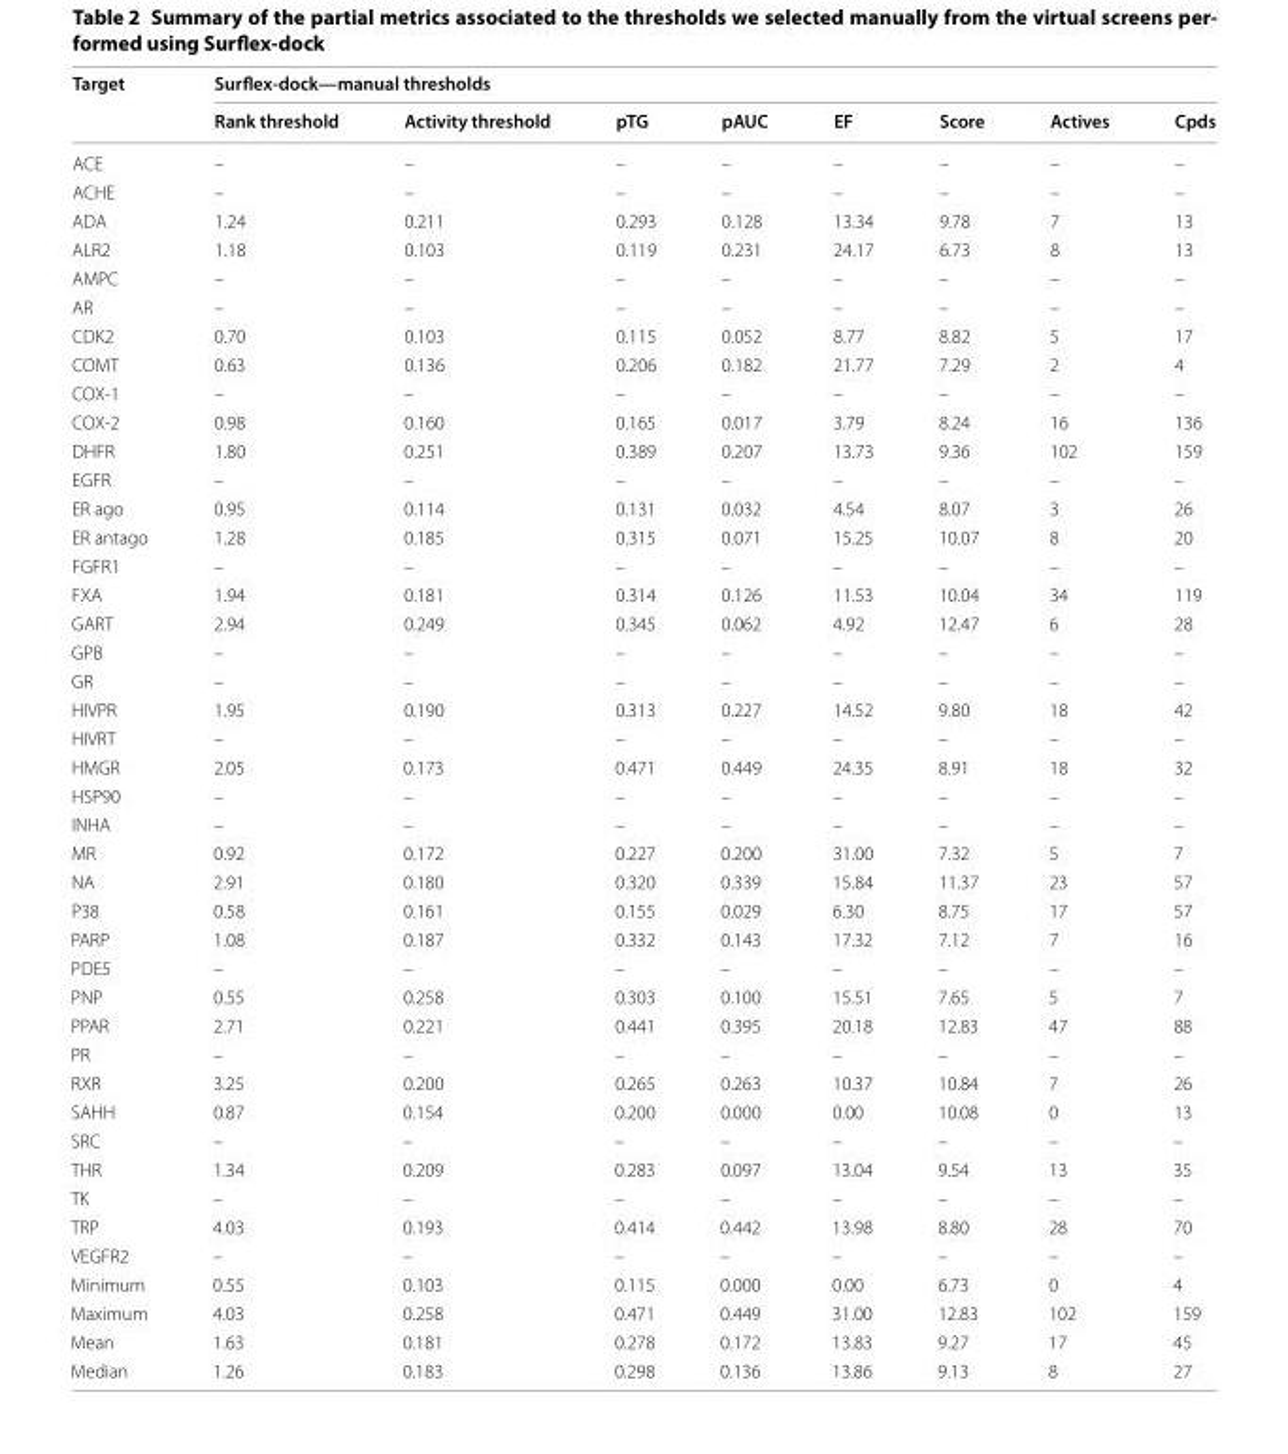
<table><thead><tr><td rowspan="2">Target</td><td colspan="8">Surflex-dock—manual thresholds</td></tr><tr><td>Rank threshold</td><td>Activity threshold</td><td>pTG</td><td>pAUC</td><td>EF</td><td>Score</td><td>Actives</td><td>Cpds</td></tr></thead><tbody><tr><td>ACE</td><td>–</td><td>–</td><td>–</td><td>–</td><td>–</td><td>–</td><td>–</td><td>–</td></tr><tr><td>ACHE</td><td>–</td><td>–</td><td>–</td><td>–</td><td>–</td><td>–</td><td>–</td><td>–</td></tr><tr><td>ADA</td><td>1.24</td><td>0.211</td><td>0.293</td><td>0.128</td><td>13.34</td><td>9.78</td><td>7</td><td>13</td></tr><tr><td>ALR2</td><td>1.18</td><td>0.103</td><td>0.119</td><td>0.231</td><td>24.17</td><td>6.73</td><td>8</td><td>13</td></tr><tr><td>AMPC</td><td>–</td><td>–</td><td>–</td><td>–</td><td>–</td><td>–</td><td>–</td><td>–</td></tr><tr><td>AR</td><td>–</td><td>–</td><td>–</td><td>–</td><td>–</td><td>–</td><td>–</td><td>–</td></tr><tr><td>CDK2</td><td>0.70</td><td>0.103</td><td>0.115</td><td>0.052</td><td>8.77</td><td>8.82</td><td>5</td><td>17</td></tr><tr><td>COMT</td><td>0.63</td><td>0.136</td><td>0.206</td><td>0.182</td><td>21.77</td><td>7.29</td><td>2</td><td>4</td></tr><tr><td>COX‑1</td><td>–</td><td>–</td><td>–</td><td>–</td><td>–</td><td>–</td><td>–</td><td>–</td></tr><tr><td>COX‑2</td><td>0.98</td><td>0.160</td><td>0.165</td><td>0.017</td><td>3.79</td><td>8.24</td><td>16</td><td>136</td></tr><tr><td>DHFR</td><td>1.80</td><td>0.251</td><td>0.389</td><td>0.207</td><td>13.73</td><td>9.36</td><td>102</td><td>159</td></tr><tr><td>EGFR</td><td>–</td><td>–</td><td>–</td><td>–</td><td>–</td><td>–</td><td>–</td><td>–</td></tr><tr><td>ER ago</td><td>0.95</td><td>0.114</td><td>0.131</td><td>0.032</td><td>4.54</td><td>8.07</td><td>3</td><td>26</td></tr><tr><td>ER antago</td><td>1.28</td><td>0.185</td><td>0.315</td><td>0.071</td><td>15.25</td><td>10.07</td><td>8</td><td>20</td></tr><tr><td>FGFR1</td><td>–</td><td>–</td><td>–</td><td>–</td><td>–</td><td>–</td><td>–</td><td>–</td></tr><tr><td>FXA</td><td>1.94</td><td>0.181</td><td>0.314</td><td>0.126</td><td>11.53</td><td>10.04</td><td>34</td><td>119</td></tr><tr><td>GART</td><td>2.94</td><td>0.249</td><td>0.345</td><td>0.062</td><td>4.92</td><td>12.47</td><td>6</td><td>28</td></tr><tr><td>GPB</td><td>–</td><td>–</td><td>–</td><td>–</td><td>–</td><td>–</td><td>–</td><td>–</td></tr><tr><td>GR</td><td>–</td><td>–</td><td>–</td><td>–</td><td>–</td><td>–</td><td>–</td><td>–</td></tr><tr><td>HIVPR</td><td>1.95</td><td>0.190</td><td>0.313</td><td>0.227</td><td>14.52</td><td>9.80</td><td>18</td><td>42</td></tr><tr><td>HIVRT</td><td>–</td><td>–</td><td>–</td><td>–</td><td>–</td><td>–</td><td>–</td><td>–</td></tr><tr><td>HMGR</td><td>2.05</td><td>0.173</td><td>0.471</td><td>0.449</td><td>24.35</td><td>8.91</td><td>18</td><td>32</td></tr><tr><td>HSP90</td><td>–</td><td>–</td><td>–</td><td>–</td><td>–</td><td>–</td><td>–</td><td>–</td></tr><tr><td>INHA</td><td>–</td><td>–</td><td>–</td><td>–</td><td>–</td><td>–</td><td>–</td><td>–</td></tr><tr><td>MR</td><td>0.92</td><td>0.172</td><td>0.227</td><td>0.200</td><td>31.00</td><td>7.32</td><td>5</td><td>7</td></tr><tr><td>NA</td><td>2.91</td><td>0.180</td><td>0.320</td><td>0.339</td><td>15.84</td><td>11.37</td><td>23</td><td>57</td></tr><tr><td>P38</td><td>0.58</td><td>0.161</td><td>0.155</td><td>0.029</td><td>6.30</td><td>8.75</td><td>17</td><td>57</td></tr><tr><td>PARP</td><td>1.08</td><td>0.187</td><td>0.332</td><td>0.143</td><td>17.32</td><td>7.12</td><td>7</td><td>16</td></tr><tr><td>PDE5</td><td>–</td><td>–</td><td>–</td><td>–</td><td>–</td><td>–</td><td>–</td><td>–</td></tr><tr><td>PNP</td><td>0.55</td><td>0.258</td><td>0.303</td><td>0.100</td><td>15.51</td><td>7.65</td><td>5</td><td>7</td></tr><tr><td>PPAR</td><td>2.71</td><td>0.221</td><td>0.441</td><td>0.395</td><td>20.18</td><td>12.83</td><td>47</td><td>88</td></tr><tr><td>PR</td><td>–</td><td>–</td><td>–</td><td>–</td><td>–</td><td>–</td><td>–</td><td>–</td></tr><tr><td>RXR</td><td>3.25</td><td>0.200</td><td>0.265</td><td>0.263</td><td>10.37</td><td>10.84</td><td>7</td><td>26</td></tr><tr><td>SAHH</td><td>0.87</td><td>0.154</td><td>0.200</td><td>0.000</td><td>0.00</td><td>10.08</td><td>0</td><td>13</td></tr><tr><td>SRC</td><td>–</td><td>–</td><td>–</td><td>–</td><td>–</td><td>–</td><td>–</td><td>–</td></tr><tr><td>THR</td><td>1.34</td><td>0.209</td><td>0.283</td><td>0.097</td><td>13.04</td><td>9.54</td><td>13</td><td>35</td></tr><tr><td>TK</td><td>–</td><td>–</td><td>–</td><td>–</td><td>–</td><td>–</td><td>–</td><td>–</td></tr><tr><td>TRP</td><td>4.03</td><td>0.193</td><td>0.414</td><td>0.442</td><td>13.98</td><td>8.80</td><td>28</td><td>70</td></tr><tr><td>VEGFR2</td><td>–</td><td>–</td><td>–</td><td>–</td><td>–</td><td>–</td><td>–</td><td>–</td></tr><tr><td>Minimum</td><td>0.55</td><td>0.103</td><td>0.115</td><td>0.000</td><td>0.00</td><td>6.73</td><td>0</td><td>4</td></tr><tr><td>Maximum</td><td>4.03</td><td>0.258</td><td>0.471</td><td>0.449</td><td>31.00</td><td>12.83</td><td>102</td><td>159</td></tr><tr><td>Mean</td><td>1.63</td><td>0.181</td><td>0.278</td><td>0.172</td><td>13.83</td><td>9.27</td><td>17</td><td>45</td></tr><tr><td>Median</td><td>1.26</td><td>0.183</td><td>0.298</td><td>0.136</td><td>13.86</td><td>9.13</td><td>8</td><td>27</td></tr></tbody></table>